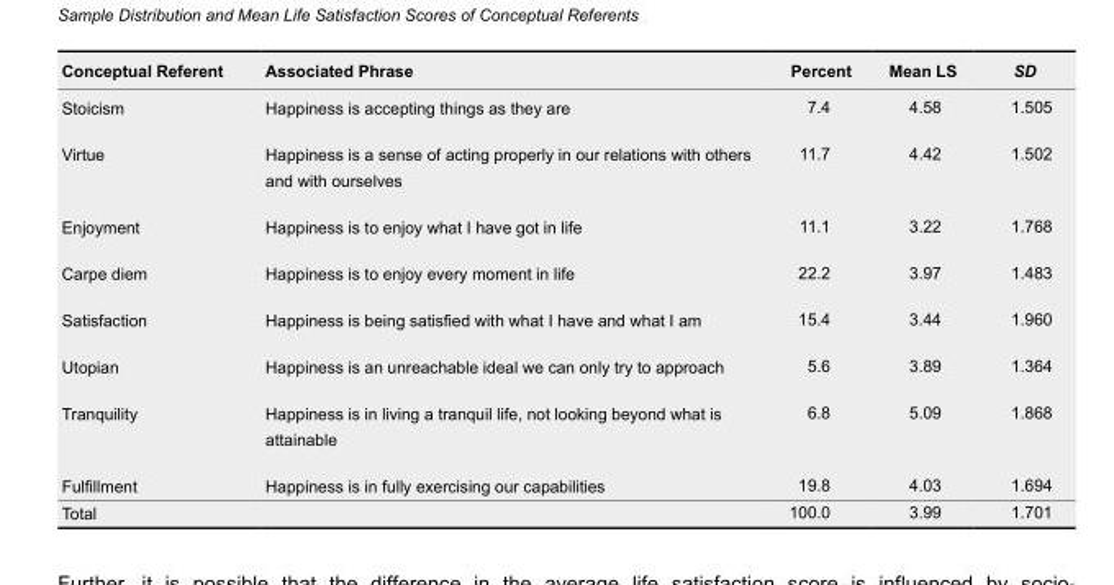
<table><thead><tr><td>Conceptual Referent</td><td>Associated Phrase</td><td>Percent</td><td>Mean LS</td><td>SD</td></tr></thead><tbody><tr><td>Stoicism</td><td>Happiness is accepting things as they are</td><td>7.4</td><td>4.58</td><td>1.505</td></tr><tr><td>Virtue</td><td>Happiness is a sense of acting properly in our relations with others and with ourselves</td><td>11.7</td><td>4.42</td><td>1.502</td></tr><tr><td>Enjoyment</td><td>Happiness is to enjoy what I have got in life</td><td>11.1</td><td>3.22</td><td>1.768</td></tr><tr><td>Carpe diem</td><td>Happiness is to enjoy every moment in life</td><td>22.2</td><td>3.97</td><td>1.483</td></tr><tr><td>Satisfaction</td><td>Happiness is being satisfied with what I have and what I am</td><td>15.4</td><td>3.44</td><td>1.960</td></tr><tr><td>Utopian</td><td>Happiness is an unreachable ideal we can only try to approach</td><td>5.6</td><td>3.89</td><td>1.364</td></tr><tr><td>Tranquility</td><td>Happiness is in living a tranquil life, not looking beyond what is attainable</td><td>6.8</td><td>5.09</td><td>1.868</td></tr><tr><td>Fulfillment</td><td>Happiness is in fully exercising our capabilities</td><td>19.8</td><td>4.03</td><td>1.694</td></tr><tr><td>Total</td><td></td><td>100.0</td><td>3.99</td><td>1.701</td></tr></tbody></table>